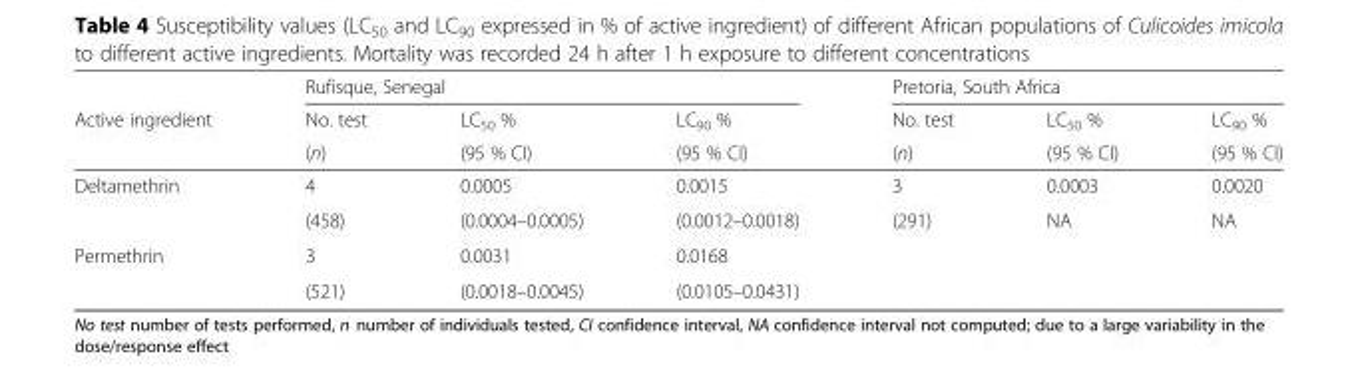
<table><thead><tr><td rowspan="3">Active ingredient</td><td colspan="3">Rufisque, Senegal</td><td colspan="3">Pretoria, South Africa</td></tr><tr><td rowspan="2">No. test (n)</td><td rowspan="2">LC<sub>50</sub> % (95 % CI)</td><td rowspan="2">LC<sub>90</sub> % (95 % CI)</td><td rowspan="2">No. test (n)</td><td rowspan="2">LC<sub>50</sub> % (95 % CI)</td><td rowspan="2">LC<sub>90</sub> % (95 % CI)</td></tr><tr></tr></thead><tbody><tr><td rowspan="2">Deltamethrin</td><td>4</td><td>0.0005</td><td>0.0015</td><td>3</td><td>0.0003</td><td>0.0020</td></tr><tr><td>(458)</td><td>(0.0004–0.0005)</td><td>(0.0012–0.0018)</td><td>(291)</td><td>NA</td><td>NA</td></tr><tr><td rowspan="2">Permethrin</td><td>3</td><td>0.0031</td><td>0.0168</td><td></td><td></td><td></td></tr><tr><td>(521)</td><td>(0.0018–0.0045)</td><td>(0.0105–0.0431)</td><td></td><td></td><td></td></tr></tbody></table>